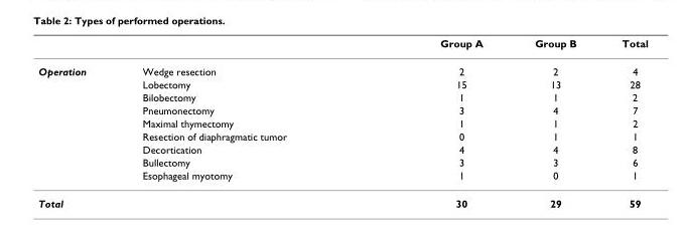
<table><thead><tr><td></td><td></td><td>Group A</td><td>Group B</td><td>Total</td></tr></thead><tbody><tr><td rowspan="9">Operation</td><td>Wedge resection</td><td>2</td><td>2</td><td>4</td></tr><tr><td>Lobectomy</td><td>15</td><td>13</td><td>28</td></tr><tr><td>Bilobectomy</td><td>1</td><td>1</td><td>2</td></tr><tr><td>Pneumonectomy</td><td>3</td><td>4</td><td>7</td></tr><tr><td>Maximal thymectomy</td><td>1</td><td>1</td><td>2</td></tr><tr><td>Resection of diaphragmatic tumor</td><td>0</td><td>1</td><td>1</td></tr><tr><td>Decortication</td><td>4</td><td>4</td><td>8</td></tr><tr><td>Bullectomy</td><td>3</td><td>3</td><td>6</td></tr><tr><td>Esophageal myotomy</td><td>1</td><td>0</td><td>1</td></tr><tr><td>Total</td><td></td><td>30</td><td>29</td><td>59</td></tr></tbody></table>